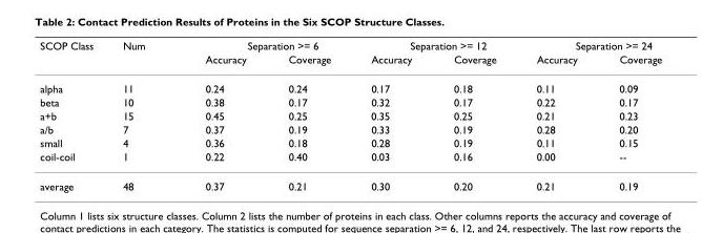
<table><thead><tr><td rowspan="2">SCOP Class</td><td rowspan="2">Num</td><td colspan="2">Separation &gt;= 6</td><td colspan="2">Separation &gt;= 12</td><td colspan="2">Separation &gt;= 24</td></tr><tr><td>Accuracy</td><td>Coverage</td><td>Accuracy</td><td>Coverage</td><td>Accuracy</td><td>Coverage</td></tr></thead><tbody><tr><td>alpha</td><td>11</td><td>0.24</td><td>0.24</td><td>0.17</td><td>0.18</td><td>0.11</td><td>0.09</td></tr><tr><td>beta</td><td>10</td><td>0.38</td><td>0.17</td><td>0.32</td><td>0.17</td><td>0.22</td><td>0.17</td></tr><tr><td>a+b</td><td>15</td><td>0.45</td><td>0.25</td><td>0.35</td><td>0.25</td><td>0.21</td><td>0.23</td></tr><tr><td>a/b</td><td>7</td><td>0.37</td><td>0.19</td><td>0.33</td><td>0.19</td><td>0.28</td><td>0.20</td></tr><tr><td>small</td><td>4</td><td>0.36</td><td>0.18</td><td>0.28</td><td>0.19</td><td>0.11</td><td>0.15</td></tr><tr><td>coil-coil</td><td>1</td><td>0.22</td><td>0.40</td><td>0.03</td><td>0.16</td><td>0.00</td><td>--</td></tr><tr><td>average</td><td>48</td><td>0.37</td><td>0.21</td><td>0.30</td><td>0.20</td><td>0.21</td><td>0.19</td></tr></tbody></table>